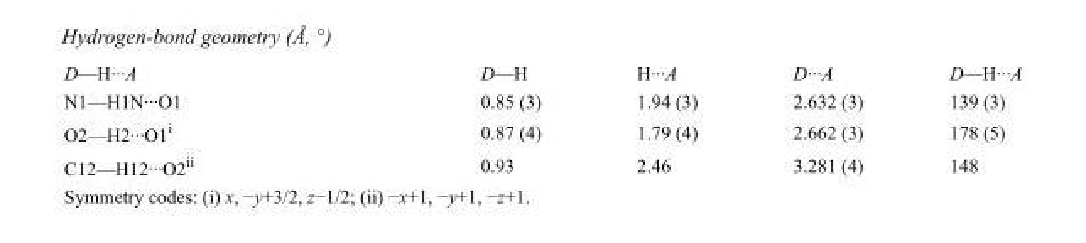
<table><tbody><tr><td>D—H···A</td><td>D—H</td><td>H···A</td><td>D···A</td><td>D—H···A</td></tr><tr><td>N1—H1N···O1</td><td>0.85 (3)</td><td>1.94 (3)</td><td>2.632 (3)</td><td>139 (3)</td></tr><tr><td>O2—H2···O1<sup>i</sup></td><td>0.87 (4)</td><td>1.79 (4)</td><td>2.662 (3)</td><td>178 (5)</td></tr><tr><td>C12—H12···O2<sup>ii</sup></td><td>0.93</td><td>2.46</td><td>3.281 (4)</td><td>148</td></tr></tbody></table>